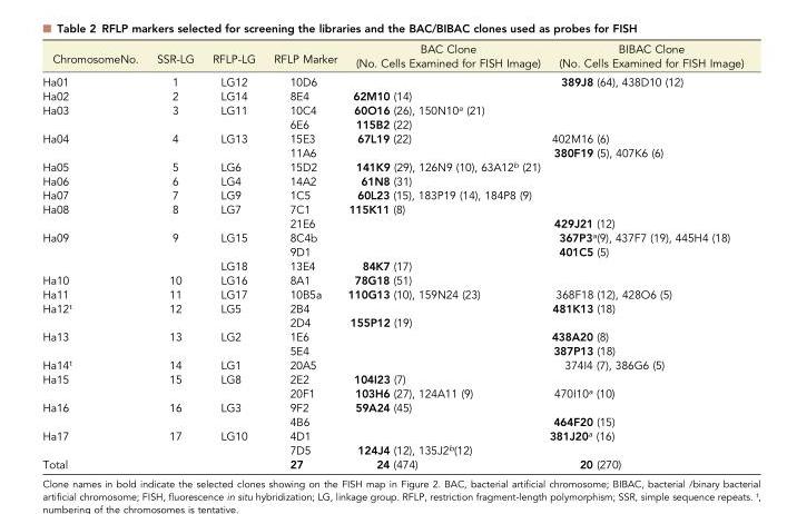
<table><thead><tr><td>ChromosomeNo.</td><td>SSR-LG</td><td>RFLP-LG</td><td>RFLP Marker</td><td>BAC Clone (No. Cells Examined for FISH Image)</td><td>BIBAC Clone (No. Cells Examined for FISH Image)</td></tr></thead><tbody><tr><td>Ha01</td><td>1</td><td>LG12</td><td>10D6</td><td></td><td>389J8 (64), 438D10 (12)</td></tr><tr><td>Ha02</td><td>2</td><td>LG14</td><td>8E4</td><td>62M10 (14)</td><td></td></tr><tr><td rowspan="2">Ha03</td><td>3</td><td>LG11</td><td>10C4</td><td>60O16 (26), 150N10<sup>a</sup> (21)</td><td></td></tr><tr><td></td><td></td><td>6E6</td><td>115B2 (22)</td><td></td></tr><tr><td rowspan="2">Ha04</td><td>4</td><td>LG13</td><td>15E3</td><td>67L19 (22)</td><td>402M16 (6)</td></tr><tr><td></td><td></td><td>11A6</td><td></td><td>380F19 (5), 407K6 (6)</td></tr><tr><td>Ha05</td><td>5</td><td>LG6</td><td>15D2</td><td>141K9 (29), 126N9 (10), 63A12<sup>b</sup> (21)</td><td></td></tr><tr><td>Ha06</td><td>6</td><td>LG4</td><td>14A2</td><td>61N8 (31)</td><td></td></tr><tr><td>Ha07</td><td>7</td><td>LG9</td><td>1C5</td><td>60L23 (15), 183P19 (14), 184P8 (9)</td><td></td></tr><tr><td rowspan="2">Ha08</td><td>8</td><td>LG7</td><td>7C1</td><td>115K11 (8)</td><td></td></tr><tr><td></td><td></td><td>21E6</td><td></td><td>429J21 (12)</td></tr><tr><td rowspan="3">Ha09</td><td>9</td><td>LG15</td><td>8C4b</td><td></td><td>367P3<sup>a</sup>(9), 437F7 (19), 445H4 (18)</td></tr><tr><td></td><td></td><td>9D1</td><td></td><td>401C5 (5)</td></tr><tr><td></td><td>LG18</td><td>13E4</td><td>84K7 (17)</td><td></td></tr><tr><td>Ha10</td><td>10</td><td>LG16</td><td>8A1</td><td>78G18 (51)</td><td></td></tr><tr><td>Ha11</td><td>11</td><td>LG17</td><td>10B5a</td><td>110G13 (10), 159N24 (23)</td><td>368F18 (12), 428O6 (5)</td></tr><tr><td rowspan="2">Ha12<sup>t</sup></td><td>12</td><td>LG5</td><td>2B4</td><td></td><td>481K13 (18)</td></tr><tr><td></td><td></td><td>2D4</td><td>155P12 (19)</td><td></td></tr><tr><td rowspan="2">Ha13</td><td>13</td><td>LG2</td><td>1E6</td><td></td><td>438A20 (8)</td></tr><tr><td></td><td></td><td>5E4</td><td></td><td>387P13 (18)</td></tr><tr><td>Ha14<sup>t</sup></td><td>14</td><td>LG1</td><td>20A5</td><td></td><td>374I4 (7), 386G6 (5)</td></tr><tr><td rowspan="2">Ha15</td><td>15</td><td>LG8</td><td>2E2</td><td>104I23 (7)</td><td></td></tr><tr><td></td><td></td><td>20F1</td><td>103H6 (27), 124A11 (9)</td><td>470I10<sup>a</sup> (10)</td></tr><tr><td rowspan="2">Ha16</td><td>16</td><td>LG3</td><td>9F2</td><td>59A24 (45)</td><td></td></tr><tr><td></td><td></td><td>4B6</td><td></td><td>464F20 (15)</td></tr><tr><td rowspan="2">Ha17</td><td>17</td><td>LG10</td><td>4D1</td><td></td><td>381J20<sup>a</sup> (16)</td></tr><tr><td></td><td></td><td>7D5</td><td>124J4 (12), 135J2<sup>b</sup>(12)</td><td></td></tr><tr><td>Total</td><td></td><td></td><td>27</td><td>24 (474)</td><td>20 (270)</td></tr></tbody></table>